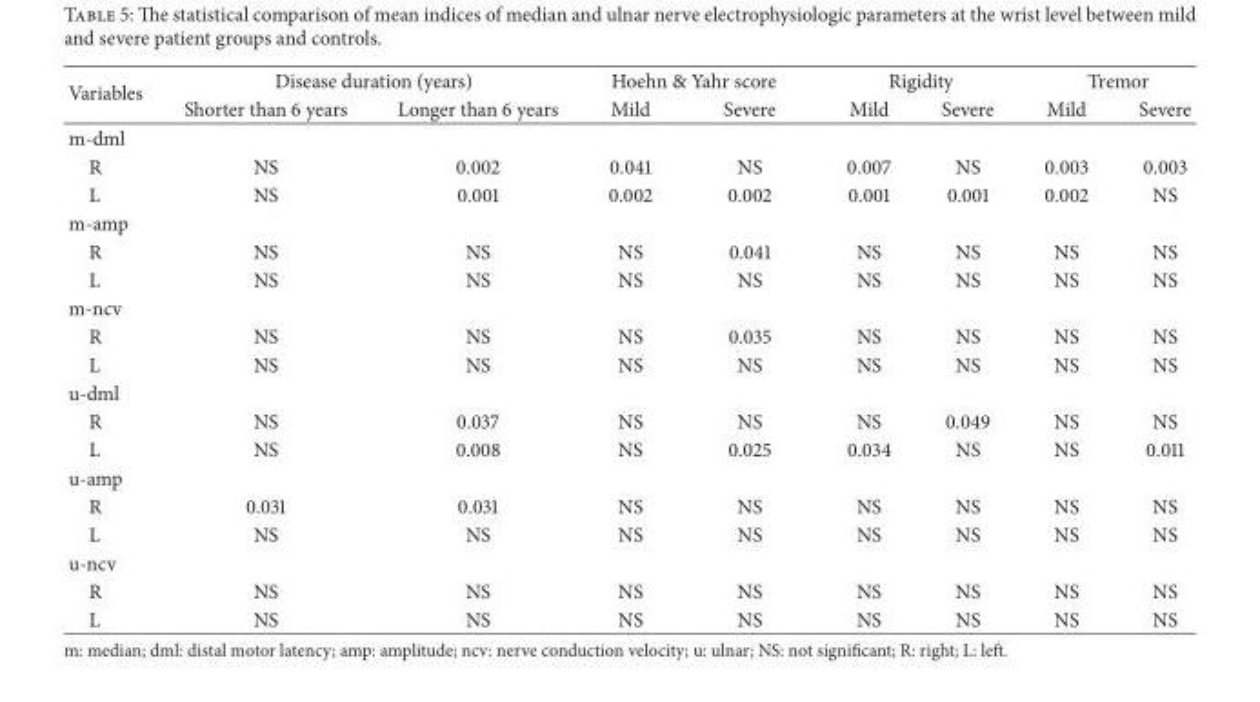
<table><thead><tr><td rowspan="2">Variables</td><td colspan="2">Disease duration (years)</td><td colspan="2">Hoehn &amp; Yahr score</td><td colspan="2">Rigidity</td><td colspan="2">Tremor</td></tr><tr><td>Shorter than 6 years</td><td>Longer than 6 years</td><td>Mild</td><td>Severe</td><td>Mild</td><td>Severe</td><td>Mild</td><td>Severe</td></tr></thead><tbody><tr><td colspan="9">m-dml</td></tr><tr><td>R</td><td>NS</td><td>0.002</td><td>0.041</td><td>NS</td><td>0.007</td><td>NS</td><td>0.003</td><td>0.003</td></tr><tr><td>L</td><td>NS</td><td>0.001</td><td>0.002</td><td>0.002</td><td>0.001</td><td>0.001</td><td>0.002</td><td>NS</td></tr><tr><td colspan="9">m-amp</td></tr><tr><td>R</td><td>NS</td><td>NS</td><td>NS</td><td>0.041</td><td>NS</td><td>NS</td><td>NS</td><td>NS</td></tr><tr><td>L</td><td>NS</td><td>NS</td><td>NS</td><td>NS</td><td>NS</td><td>NS</td><td>NS</td><td>NS</td></tr><tr><td colspan="9">m-ncv</td></tr><tr><td>R</td><td>NS</td><td>NS</td><td>NS</td><td>0.035</td><td>NS</td><td>NS</td><td>NS</td><td>NS</td></tr><tr><td>L</td><td>NS</td><td>NS</td><td>NS</td><td>NS</td><td>NS</td><td>NS</td><td>NS</td><td>NS</td></tr><tr><td colspan="9">u-dml</td></tr><tr><td>R</td><td>NS</td><td>0.037</td><td>NS</td><td>NS</td><td>NS</td><td>0.049</td><td>NS</td><td>NS</td></tr><tr><td>L</td><td>NS</td><td>0.008</td><td>NS</td><td>0.025</td><td>0.034</td><td>NS</td><td>NS</td><td>0.011</td></tr><tr><td colspan="9">u-amp</td></tr><tr><td>R</td><td>0.031</td><td>0.031</td><td>NS</td><td>NS</td><td>NS</td><td>NS</td><td>NS</td><td>NS</td></tr><tr><td>L</td><td>NS</td><td>NS</td><td>NS</td><td>NS</td><td>NS</td><td>NS</td><td>NS</td><td>NS</td></tr><tr><td colspan="9">u-ncv</td></tr><tr><td>R</td><td>NS</td><td>NS</td><td>NS</td><td>NS</td><td>NS</td><td>NS</td><td>NS</td><td>NS</td></tr><tr><td>L</td><td>NS</td><td>NS</td><td>NS</td><td>NS</td><td>NS</td><td>NS</td><td>NS</td><td>NS</td></tr></tbody></table>